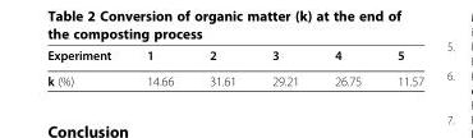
<table><thead><tr><td>Experiment</td><td>1</td><td>2</td><td>3</td><td>4</td><td>5</td></tr></thead><tbody><tr><td>k (%)</td><td>14.66</td><td>31.61</td><td>29.21</td><td>26.75</td><td>11.57</td></tr></tbody></table>